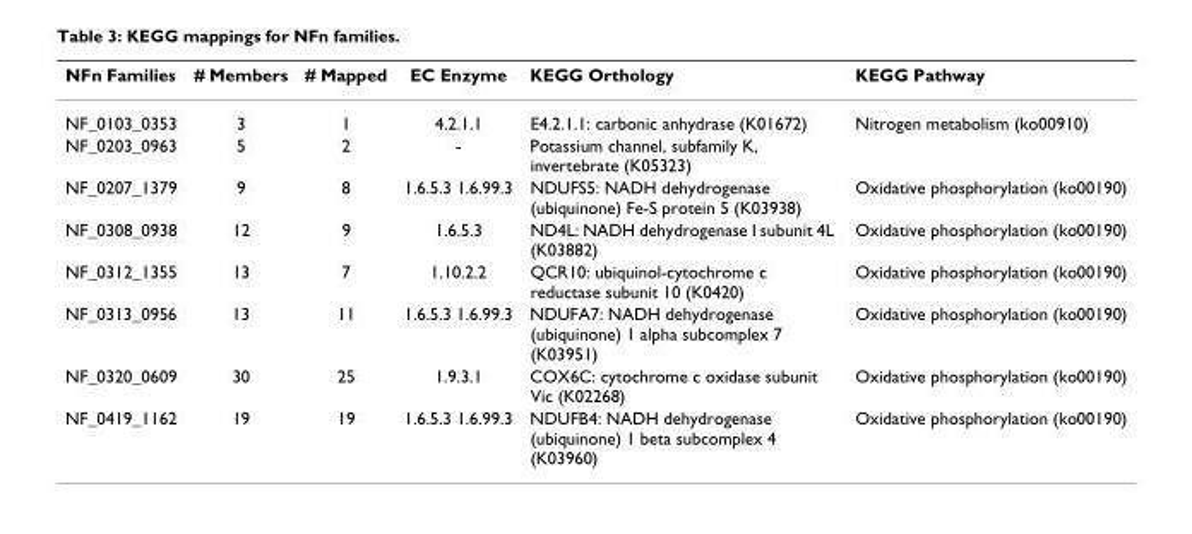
<table><thead><tr><td>NFn Families</td><td># Members</td><td># Mapped</td><td>EC Enzyme</td><td>KEGG Orthology</td><td>KEGG Pathway</td></tr></thead><tbody><tr><td>NF_0103_0353</td><td>3</td><td>1</td><td>4.2.1.1</td><td>E4.2.1.1: carbonic anhydrase (K01672)</td><td>Nitrogen metabolism (ko00910)</td></tr><tr><td>NF_0203_0963</td><td>5</td><td>2</td><td>-</td><td>Potassium channel, subfamily K, invertebrate (K05323)</td><td></td></tr><tr><td>NF_0207_1379</td><td>9</td><td>8</td><td>1.6.5.3 1.6.99.3</td><td>NDUFS5: NADH dehydrogenase (ubiquinone) Fe-S protein 5 (K03938)</td><td>Oxidative phosphorylation (ko00190)</td></tr><tr><td>NF_0308_0938</td><td>12</td><td>9</td><td>1.6.5.3</td><td>ND4L: NADH dehydrogenase I subunit 4L (K03882)</td><td>Oxidative phosphorylation (ko00190)</td></tr><tr><td>NF_0312_1355</td><td>13</td><td>7</td><td>1.10.2.2</td><td>QCR10: ubiquinol-cytochrome c reductase subunit 10 (K0420)</td><td>Oxidative phosphorylation (ko00190)</td></tr><tr><td>NF_0313_0956</td><td>13</td><td>11</td><td>1.6.5.3 1.6.99.3</td><td>NDUFA7: NADH dehydrogenase (ubiquinone) 1 alpha subcomplex 7 (K03951)</td><td>Oxidative phosphorylation (ko00190)</td></tr><tr><td>NF_0320_0609</td><td>30</td><td>25</td><td>1.9.3.1</td><td>COX6C: cytochrome c oxidase subunit Vic (K02268)</td><td>Oxidative phosphorylation (ko00190)</td></tr><tr><td>NF_0419_1162</td><td>19</td><td>19</td><td>1.6.5.3 1.6.99.3</td><td>NDUFB4: NADH dehydrogenase (ubiquinone) 1 beta subcomplex 4 (K03960)</td><td>Oxidative phosphorylation (ko00190)</td></tr></tbody></table>